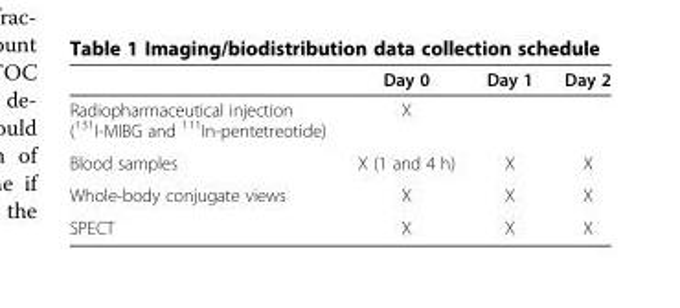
<table><thead><tr><td></td><td>Day 0</td><td>Day 1</td><td>Day 2</td></tr></thead><tbody><tr><td>Radiopharmaceutical injection (<sup>131</sup>I-MIBG and <sup>111</sup>In-pentetreotide)</td><td>X</td><td></td><td></td></tr><tr><td>Blood samples</td><td>X (1 and 4 h)</td><td>X</td><td>X</td></tr><tr><td>Whole-body conjugate views</td><td>X</td><td>X</td><td>X</td></tr><tr><td>SPECT</td><td>X</td><td>X</td><td>X</td></tr></tbody></table>